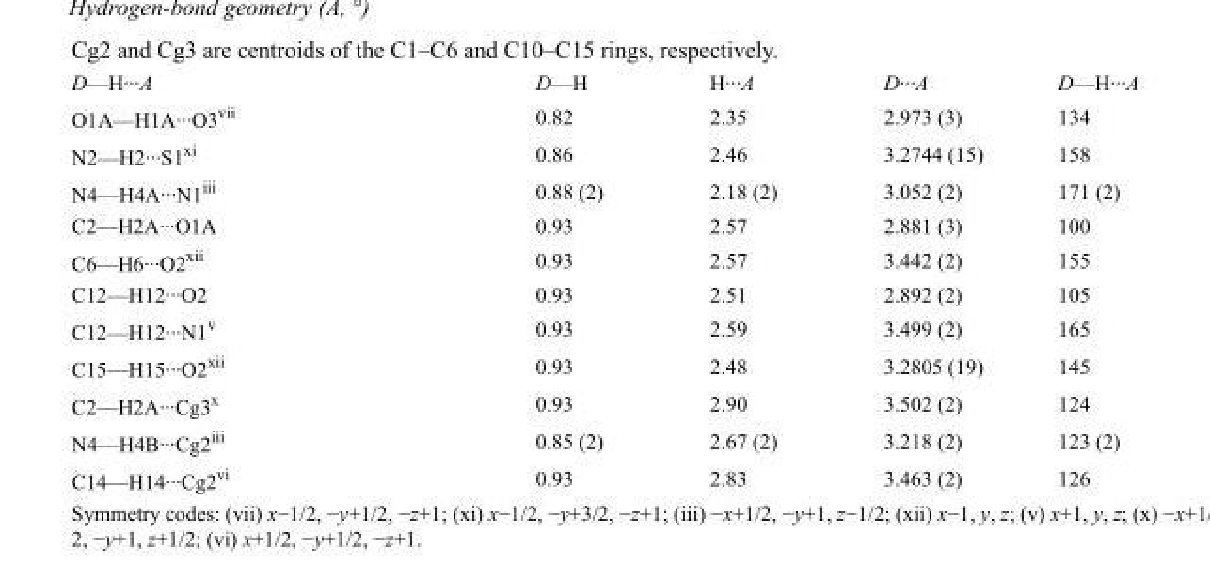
<table><tbody><tr><td>D—H···A</td><td>D—H</td><td>H···A</td><td>D···A</td><td>D—H···A</td></tr><tr><td>O1A—H1A···O3<sup>vii</sup></td><td>0.82</td><td>2.35</td><td>2.973 (3)</td><td>134</td></tr><tr><td>N2—H2···S1<sup>xi</sup></td><td>0.86</td><td>2.46</td><td>3.2744 (15)</td><td>158</td></tr><tr><td>N4—H4A···N1<sup>iii</sup></td><td>0.88 (2)</td><td>2.18 (2)</td><td>3.052 (2)</td><td>171 (2)</td></tr><tr><td>C2—H2A···O1A</td><td>0.93</td><td>2.57</td><td>2.881 (3)</td><td>100</td></tr><tr><td>C6—H6···O2<sup>xii</sup></td><td>0.93</td><td>2.57</td><td>3.442 (2)</td><td>155</td></tr><tr><td>C12—H12···O2</td><td>0.93</td><td>2.51</td><td>2.892 (2)</td><td>105</td></tr><tr><td>C12—H12···N1<sup>v</sup></td><td>0.93</td><td>2.59</td><td>3.499 (2)</td><td>165</td></tr><tr><td>C15—H15···O2<sup>xii</sup></td><td>0.93</td><td>2.48</td><td>3.2805 (19)</td><td>145</td></tr><tr><td>C2—H2A···Cg3<sup>x</sup></td><td>0.93</td><td>2.90</td><td>3.502 (2)</td><td>124</td></tr><tr><td>N4—H4B···Cg2<sup>iii</sup></td><td>0.85 (2)</td><td>2.67 (2)</td><td>3.218 (2)</td><td>123 (2)</td></tr><tr><td>C14—H14···Cg2<sup>vi</sup></td><td>0.93</td><td>2.83</td><td>3.463 (2)</td><td>126</td></tr></tbody></table>